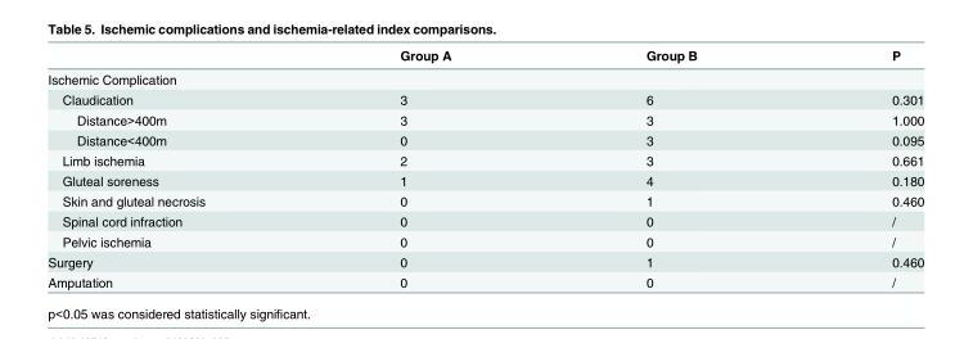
<table><thead><tr><td></td><td>Group A</td><td>Group B</td><td>P</td></tr></thead><tbody><tr><td colspan="4">Ischemic Complication</td></tr><tr><td>Claudication</td><td>3</td><td>6</td><td>0.301</td></tr><tr><td>Distance&gt;400m</td><td>3</td><td>3</td><td>1.000</td></tr><tr><td>Distance&lt;400m</td><td>0</td><td>3</td><td>0.095</td></tr><tr><td>Limb ischemia</td><td>2</td><td>3</td><td>0.661</td></tr><tr><td>Gluteal soreness</td><td>1</td><td>4</td><td>0.180</td></tr><tr><td>Skin and gluteal necrosis</td><td>0</td><td>1</td><td>0.460</td></tr><tr><td>Spinal cord infraction</td><td>0</td><td>0</td><td>/</td></tr><tr><td>Pelvic ischemia</td><td>0</td><td>0</td><td>/</td></tr><tr><td>Surgery</td><td>0</td><td>1</td><td>0.460</td></tr><tr><td>Amputation</td><td>0</td><td>0</td><td>/</td></tr></tbody></table>